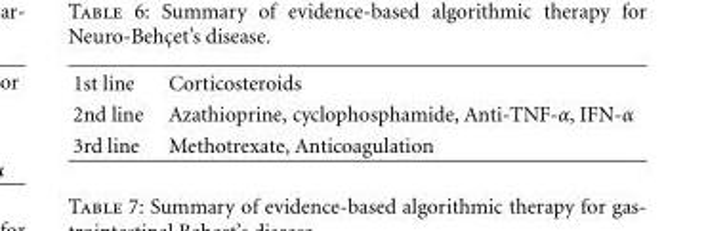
<table><tbody><tr><td>1st line</td><td>Corticosteroids</td></tr><tr><td>2nd line</td><td>Azathioprine, cyclophosphamide, Anti-TNF-α, IFN-α</td></tr><tr><td>3rd line</td><td>Methotrexate, Anticoagulation</td></tr></tbody></table>